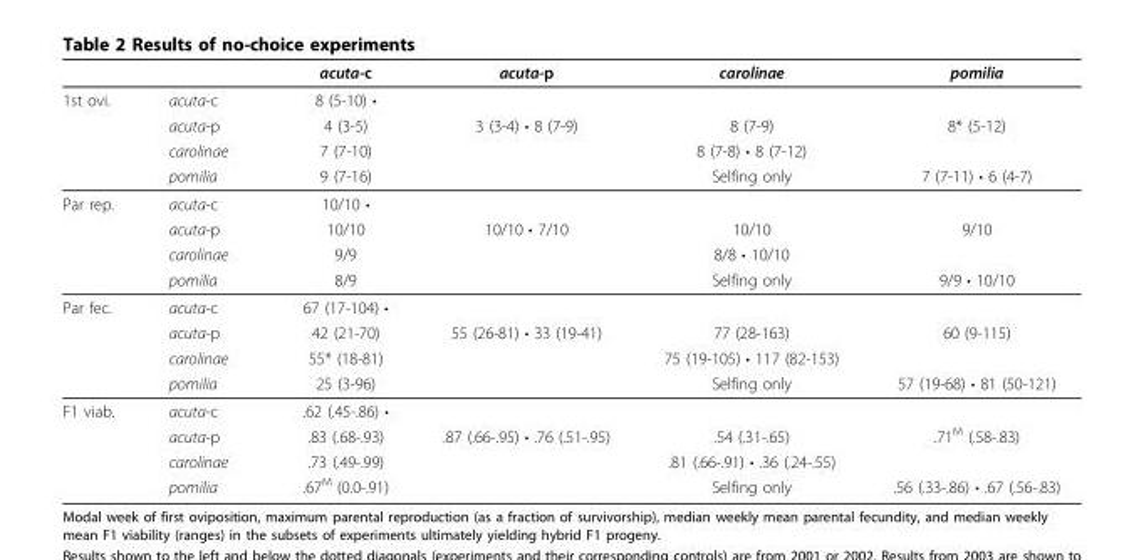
<table><thead><tr><td></td><td></td><td>acuta-c</td><td>acuta-p</td><td>carolinae</td><td>pomilia</td></tr></thead><tbody><tr><td rowspan="4">1st ovi.</td><td>acuta-c</td><td>8 (5-10) •</td><td></td><td></td><td></td></tr><tr><td>acuta-p</td><td>4 (3-5)</td><td>3 (3-4) • 8 (7-9)</td><td>8 (7-9)</td><td>8* (5-12)</td></tr><tr><td>carolinae</td><td>7 (7-10)</td><td></td><td>8 (7-8) • 8 (7-12)</td><td></td></tr><tr><td>pomilia</td><td>9 (7-16)</td><td></td><td>Selfing only</td><td>7 (7-11) • 6 (4-7)</td></tr><tr><td rowspan="4">Par rep.</td><td>acuta-c</td><td>10/10 •</td><td></td><td></td><td></td></tr><tr><td>acuta-p</td><td>10/10</td><td>10/10 • 7/10</td><td>10/10</td><td>9/10</td></tr><tr><td>carolinae</td><td>9/9</td><td></td><td>8/8 • 10/10</td><td></td></tr><tr><td>pomilia</td><td>8/9</td><td></td><td>Selfing only</td><td>9/9 • 10/10</td></tr><tr><td rowspan="4">Par fec.</td><td>acuta-c</td><td>67 (17-104) •</td><td></td><td></td><td></td></tr><tr><td>acuta-p</td><td>42 (21-70)</td><td>55 (26-81) • 33 (19-41)</td><td>77 (28-163)</td><td>60 (9-115)</td></tr><tr><td>carolinae</td><td>55* (18-81)</td><td></td><td>75 (19-105) • 117 (82-153)</td><td></td></tr><tr><td>pomilia</td><td>25 (3-96)</td><td></td><td>Selfing only</td><td>57 (19-68) • 81 (50-121)</td></tr><tr><td rowspan="4">F1 viab.</td><td>acuta-c</td><td>.62 (.45-.86) •</td><td></td><td></td><td></td></tr><tr><td>acuta-p</td><td>.83 (.68-.93)</td><td>.87 (.66-.95) • .76 (.51-.95)</td><td>.54 (.31-.65)</td><td>.71<sup>M</sup> (.58-.83)</td></tr><tr><td>carolinae</td><td>.73 (.49-.99)</td><td></td><td>.81 (.66-.91) • .36 (.24-.55)</td><td></td></tr><tr><td>pomilia</td><td>.67<sup>M</sup> (0.0-.91)</td><td></td><td>Selfing only</td><td>.56 (.33-.86) • .67 (.56-.83)</td></tr></tbody></table>